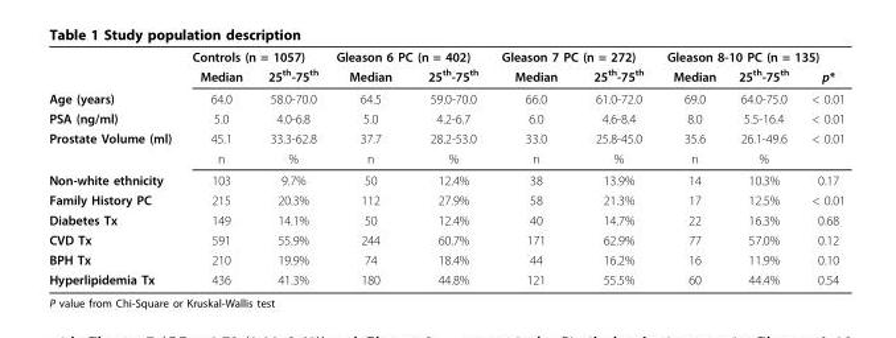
<table><thead><tr><td rowspan="2"></td><td colspan="2">Controls (n = 1057)</td><td colspan="2">Gleason 6 PC (n = 402)</td><td colspan="2">Gleason 7 PC (n = 272)</td><td colspan="3">Gleason 8-10 PC (n = 135)</td></tr><tr><td>Median</td><td>25<sup>th</sup>-75<sup>th</sup></td><td>Median</td><td>25<sup>th</sup>-75<sup>th</sup></td><td>Median</td><td>25<sup>th</sup>-75<sup>th</sup></td><td>Median</td><td>25<sup>th</sup>-75<sup>th</sup></td><td>p*</td></tr></thead><tbody><tr><td>Age (years)</td><td>64.0</td><td>58.0-70.0</td><td>64.5</td><td>59.0-70.0</td><td>66.0</td><td>61.0-72.0</td><td>69.0</td><td>64.0-75.0</td><td>&lt; 0.01</td></tr><tr><td>PSA (ng/ml)</td><td>5.0</td><td>4.0-6.8</td><td>5.0</td><td>4.2-6.7</td><td>6.0</td><td>4.6-8.4</td><td>8.0</td><td>5.5-16.4</td><td>&lt; 0.01</td></tr><tr><td rowspan="2">Prostate Volume (ml)</td><td>45.1</td><td>33.3-62.8</td><td>37.7</td><td>28.2-53.0</td><td>33.0</td><td>25.8-45.0</td><td>35.6</td><td>26.1-49.6</td><td>&lt; 0.01</td></tr><tr><td>n</td><td>%</td><td>n</td><td>%</td><td>n</td><td>%</td><td>n</td><td>%</td><td></td></tr><tr><td>Non-white ethnicity</td><td>103</td><td>9.7%</td><td>50</td><td>12.4%</td><td>38</td><td>13.9%</td><td>14</td><td>10.3%</td><td>0.17</td></tr><tr><td>Family History PC</td><td>215</td><td>20.3%</td><td>112</td><td>27.9%</td><td>58</td><td>21.3%</td><td>17</td><td>12.5%</td><td>&lt; 0.01</td></tr><tr><td>Diabetes Tx</td><td>149</td><td>14.1%</td><td>50</td><td>12.4%</td><td>40</td><td>14.7%</td><td>22</td><td>16.3%</td><td>0.68</td></tr><tr><td>CVD Tx</td><td>591</td><td>55.9%</td><td>244</td><td>60.7%</td><td>171</td><td>62.9%</td><td>77</td><td>57.0%</td><td>0.12</td></tr><tr><td>BPH Tx</td><td>210</td><td>19.9%</td><td>74</td><td>18.4%</td><td>44</td><td>16.2%</td><td>16</td><td>11.9%</td><td>0.10</td></tr><tr><td>Hyperlipidemia Tx</td><td>436</td><td>41.3%</td><td>180</td><td>44.8%</td><td>121</td><td>55.5%</td><td>60</td><td>44.4%</td><td>0.54</td></tr></tbody></table>